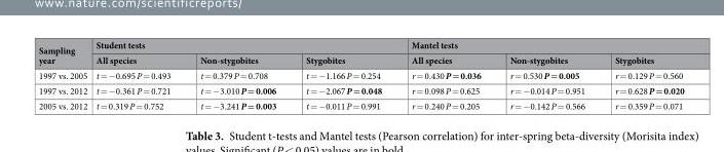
<table><thead><tr><td rowspan="2">Sampling year</td><td colspan="3">Student tests</td><td colspan="3">Mantel tests</td></tr><tr><td>All species</td><td>Non-stygobites</td><td>Stygobites</td><td>All species</td><td>Non-stygobites</td><td>Stygobites</td></tr></thead><tbody><tr><td>1997 vs. 2005</td><td>t = −0.695 P = 0.493</td><td>t = 0.379 P = 0.708</td><td>t = −1.166 P = 0.254</td><td>r = 0.430 P = 0.036</td><td>r = 0.530 P = 0.005</td><td>r = 0.129 P = 0.560</td></tr><tr><td>1997 vs. 2012</td><td>t = −0.361 P = 0.721</td><td>t = −3.010 P = 0.006</td><td>t = −2.067 P = 0.048</td><td>r = 0.098 P = 0.625</td><td>r = −0.014 P = 0.951</td><td>r = 0.628 P = 0.020</td></tr><tr><td>2005 vs. 2012</td><td>t = 0.319 P = 0.752</td><td>t = −3.241 P = 0.003</td><td>t = −0.011 P = 0.991</td><td>r = 0.240 P = 0.205</td><td>r = −0.142 P = 0.566</td><td>r = 0.359 P = 0.071</td></tr></tbody></table>